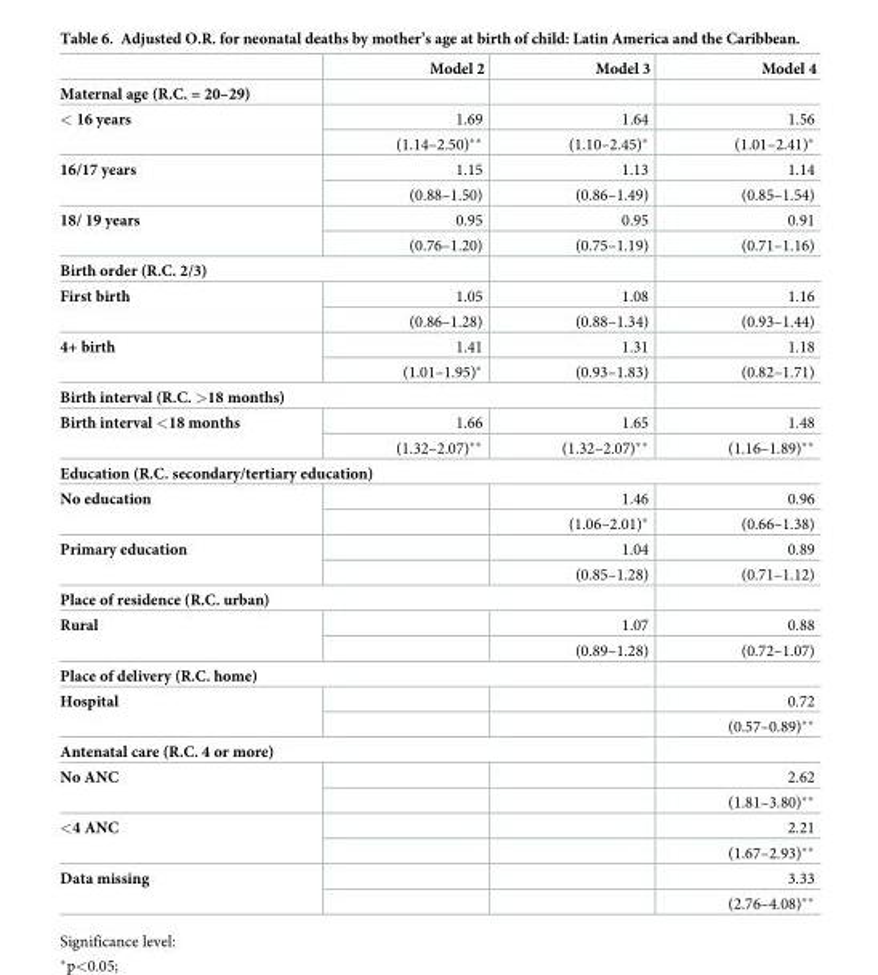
<table><thead><tr><td></td><td>Model 2</td><td>Model 3</td><td>Model 4</td></tr></thead><tbody><tr><td colspan="4">Maternal age (R.C. = 20–29)</td></tr><tr><td rowspan="2">&lt; 16 years</td><td>1.69</td><td>1.64</td><td>1.56</td></tr><tr><td>(1.14–2.50)**</td><td>(1.10–2.45)*</td><td>(1.01–2.41)*</td></tr><tr><td rowspan="2">16/17 years</td><td>1.15</td><td>1.13</td><td>1.14</td></tr><tr><td>(0.88–1.50)</td><td>(0.86–1.49)</td><td>(0.85–1.54)</td></tr><tr><td rowspan="2">18/ 19 years</td><td>0.95</td><td>0.95</td><td>0.91</td></tr><tr><td>(0.76–1.20)</td><td>(0.75–1.19)</td><td>(0.71–1.16)</td></tr><tr><td colspan="4">Birth order (R.C. 2/3)</td></tr><tr><td rowspan="2">First birth</td><td>1.05</td><td>1.08</td><td>1.16</td></tr><tr><td>(0.86–1.28)</td><td>(0.88–1.34)</td><td>(0.93–1.44)</td></tr><tr><td rowspan="2">4+ birth</td><td>1.41</td><td>1.31</td><td>1.18</td></tr><tr><td>(1.01–1.95)*</td><td>(0.93–1.83)</td><td>(0.82–1.71)</td></tr><tr><td colspan="4">Birth interval (R.C. &gt;18 months)</td></tr><tr><td rowspan="2">Birth interval &lt;18 months</td><td>1.66</td><td>1.65</td><td>1.48</td></tr><tr><td>(1.32–2.07)**</td><td>(1.32–2.07)**</td><td>(1.16–1.89)**</td></tr><tr><td colspan="4">Education (R.C. secondary/tertiary education)</td></tr><tr><td rowspan="2">No education</td><td></td><td>1.46</td><td>0.96</td></tr><tr><td></td><td>(1.06–2.01)*</td><td>(0.66–1.38)</td></tr><tr><td rowspan="2">Primary education</td><td></td><td>1.04</td><td>0.89</td></tr><tr><td></td><td>(0.85–1.28)</td><td>(0.71–1.12)</td></tr><tr><td colspan="4">Place of residence (R.C. urban)</td></tr><tr><td rowspan="2">Rural</td><td></td><td>1.07</td><td>0.88</td></tr><tr><td></td><td>(0.89–1.28)</td><td>(0.72–1.07)</td></tr><tr><td colspan="4">Place of delivery (R.C. home)</td></tr><tr><td rowspan="2">Hospital</td><td></td><td></td><td>0.72</td></tr><tr><td></td><td></td><td>(0.57–0.89)**</td></tr><tr><td colspan="4">Antenatal care (R.C. 4 or more)</td></tr><tr><td rowspan="2">No ANC</td><td></td><td></td><td>2.62</td></tr><tr><td></td><td></td><td>(1.81–3.80)**</td></tr><tr><td rowspan="2">&lt;4 ANC</td><td></td><td></td><td>2.21</td></tr><tr><td></td><td></td><td>(1.67–2.93)**</td></tr><tr><td rowspan="2">Data missing</td><td></td><td></td><td>3.33</td></tr><tr><td></td><td></td><td>(2.76–4.08)**</td></tr></tbody></table>